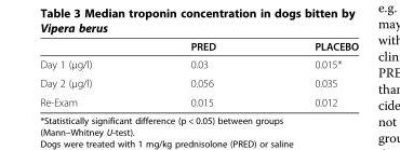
<table><thead><tr><td></td><td>PRED</td><td>PLACEBO</td></tr></thead><tbody><tr><td>Day 1 (μg/l)</td><td>0.03</td><td>0.015*</td></tr><tr><td>Day 2 (μg/l)</td><td>0.056</td><td>0.035</td></tr><tr><td>Re-Exam</td><td>0.015</td><td>0.012</td></tr></tbody></table>